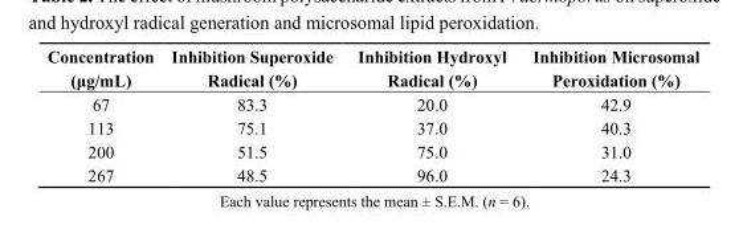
<table><thead><tr><td>Concentration (μg/mL)</td><td>Inhibition Superoxide Radical (%)</td><td>Inhibition Hydroxyl Radical (%)</td><td>Inhibition Microsomal Peroxidation (%)</td></tr></thead><tbody><tr><td>67</td><td>83.3</td><td>20.0</td><td>42.9</td></tr><tr><td>113</td><td>75.1</td><td>37.0</td><td>40.3</td></tr><tr><td>200</td><td>51.5</td><td>75.0</td><td>31.0</td></tr><tr><td>267</td><td>48.5</td><td>96.0</td><td>24.3</td></tr></tbody></table>